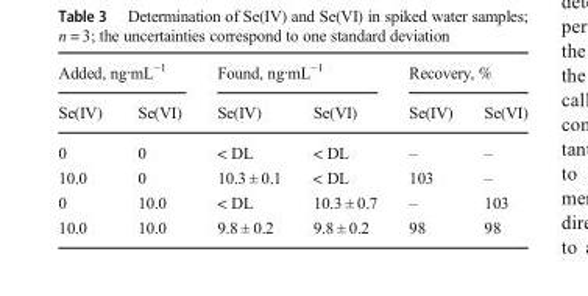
<table><thead><tr><td colspan="2">Added, ng∙mL<sup>−1</sup></td><td colspan="2">Found, ng∙mL<sup>−1</sup></td><td colspan="2">Recovery, %</td></tr><tr><td>Se(IV)</td><td>Se(VI)</td><td>Se(IV)</td><td>Se(VI)</td><td>Se(IV)</td><td>Se(VI)</td></tr></thead><tbody><tr><td>0</td><td>0</td><td>&lt; DL</td><td>&lt; DL</td><td>–</td><td>–</td></tr><tr><td>10.0</td><td>0</td><td>10.3 ± 0.1</td><td>&lt; DL</td><td>103</td><td>–</td></tr><tr><td>0</td><td>10.0</td><td>&lt; DL</td><td>10.3 ± 0.7</td><td>–</td><td>103</td></tr><tr><td>10.0</td><td>10.0</td><td>9.8 ± 0.2</td><td>9.8 ± 0.2</td><td>98</td><td>98</td></tr></tbody></table>